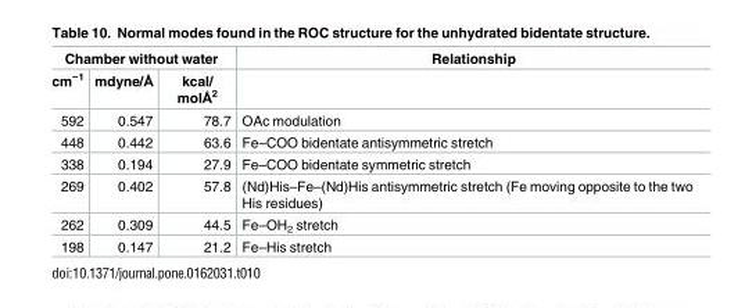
<table><thead><tr><td colspan="3">Chamber without water</td><td rowspan="2">Relationship</td></tr><tr><td>cm<sup>−1</sup></td><td>mdyne/Å</td><td>kcal/ molÅ<sup>2</sup></td></tr></thead><tbody><tr><td>592</td><td>0.547</td><td>78.7</td><td>OAc modulation</td></tr><tr><td>448</td><td>0.442</td><td>63.6</td><td>Fe–COO bidentate antisymmetric stretch</td></tr><tr><td>338</td><td>0.194</td><td>27.9</td><td>Fe–COO bidentate symmetric stretch</td></tr><tr><td>269</td><td>0.402</td><td>57.8</td><td>(Nd)His–Fe–(Nd)His antisymmetric stretch (Fe moving opposite to the two His residues)</td></tr><tr><td>262</td><td>0.309</td><td>44.5</td><td>Fe–OH<sub>2</sub> stretch</td></tr><tr><td>198</td><td>0.147</td><td>21.2</td><td>Fe–His stretch</td></tr></tbody></table>